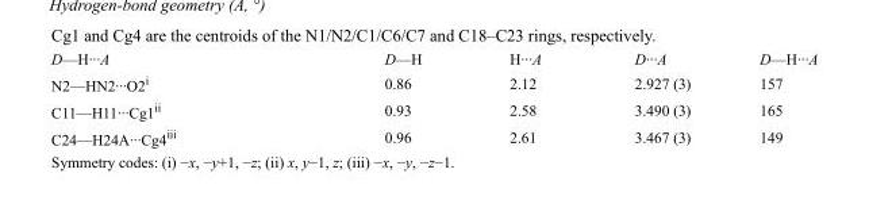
<table><tbody><tr><td>D—H···A</td><td>D—H</td><td>H···A</td><td>D···A</td><td>D—H···A</td></tr><tr><td>N2—HN2···O2<sup>i</sup></td><td>0.86</td><td>2.12</td><td>2.927 (3)</td><td>157</td></tr><tr><td>C11—H11···Cg1<sup>ii</sup></td><td>0.93</td><td>2.58</td><td>3.490 (3)</td><td>165</td></tr><tr><td>C24—H24A···Cg4<sup>iii</sup></td><td>0.96</td><td>2.61</td><td>3.467 (3)</td><td>149</td></tr></tbody></table>